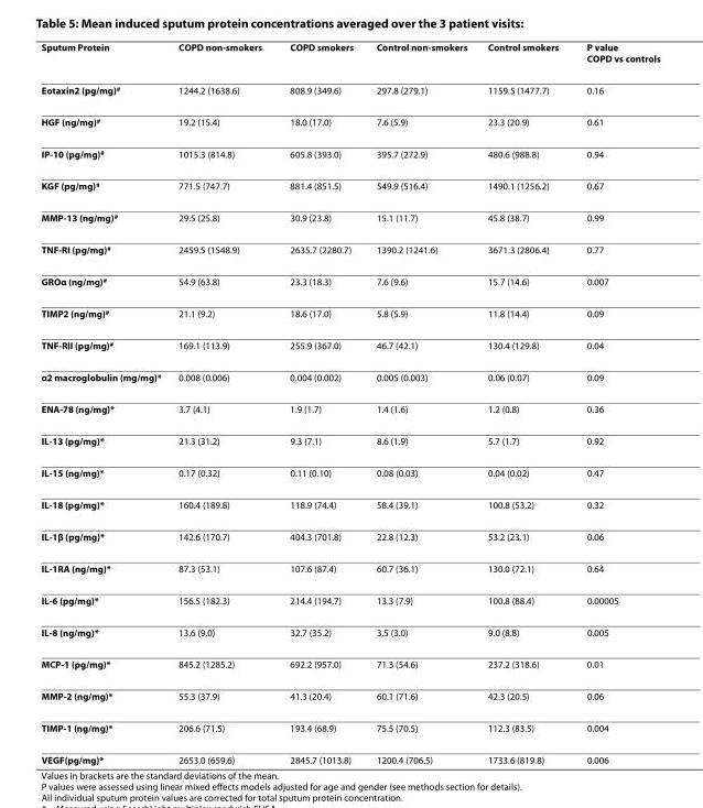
<table><thead><tr><td>Sputum Protein</td><td>COPD non-smokers</td><td>COPD smokers</td><td>Control non-smokers</td><td>Control smokers</td><td>P value COPD vs controls</td></tr></thead><tbody><tr><td>Eotaxin2 (pg/mg)<sup>#</sup></td><td>1244.2 (1638.6)</td><td>808.9 (349.6)</td><td>297.8 (279.1)</td><td>1159.5 (1477.7)</td><td>0.16</td></tr><tr><td>HGF (ng/mg)<sup>#</sup></td><td>19.2 (15.4)</td><td>18.0 (17.0)</td><td>7.6 (5.9)</td><td>23.3 (20.9)</td><td>0.61</td></tr><tr><td>IP-10 (pg/mg)<sup>#</sup></td><td>1015.3 (814.8)</td><td>605.8 (393.0)</td><td>395.7 (272.9)</td><td>480.6 (988.8)</td><td>0.94</td></tr><tr><td>KGF (pg/mg)<sup>#</sup></td><td>771.5 (747.7)</td><td>881.4 (851.5)</td><td>549.9 (516.4)</td><td>1490.1 (1256.2)</td><td>0.67</td></tr><tr><td>MMP-13 (ng/mg)<sup>#</sup></td><td>29.5 (25.8)</td><td>30.9 (23.8)</td><td>15.1 (11.7)</td><td>45.8 (38.7)</td><td>0.99</td></tr><tr><td>TNF-RI (pg/mg)<sup>#</sup></td><td>2459.5 (1548.9)</td><td>2635.7 (2280.7)</td><td>1390.2 (1241.6)</td><td>3671.3 (2806.4)</td><td>0.77</td></tr><tr><td>GROα (ng/mg)<sup>#</sup></td><td>54.9 (63.8)</td><td>23.3 (18.3)</td><td>7.6 (9.6)</td><td>15.7 (14.6)</td><td>0.007</td></tr><tr><td>TIMP2 (ng/mg)<sup>#</sup></td><td>21.1 (9.2)</td><td>18.6 (17.0)</td><td>5.8 (5.9)</td><td>11.8 (14.4)</td><td>0.09</td></tr><tr><td>TNF-RII (pg/mg)<sup>#</sup></td><td>169.1 (113.9)</td><td>255.9 (367.0)</td><td>46.7 (42.1)</td><td>130.4 (129.8)</td><td>0.04</td></tr><tr><td>α2 macroglobulin (mg/mg)*</td><td>0.008 (0.006)</td><td>0.004 (0.002)</td><td>0.005 (0.003)</td><td>0.06 (0.07)</td><td>0.09</td></tr><tr><td>ENA-78 (ng/mg)*</td><td>3.7 (4.1)</td><td>1.9 (1.7)</td><td>1.4 (1.6)</td><td>1.2 (0.8)</td><td>0.36</td></tr><tr><td>IL-13 (pg/mg)*</td><td>21.3 (31.2)</td><td>9.3 (7.1)</td><td>8.6 (1.9)</td><td>5.7 (1.7)</td><td>0.92</td></tr><tr><td>IL-15 (ng/mg)*</td><td>0.17 (0.32)</td><td>0.11 (0.10)</td><td>0.08 (0.03)</td><td>0.04 (0.02)</td><td>0.47</td></tr><tr><td>IL-18 (pg/mg)*</td><td>160.4 (189.8)</td><td>118.9 (74.4)</td><td>58.4 (39.1)</td><td>100.8 (53.2)</td><td>0.32</td></tr><tr><td>IL-1β (pg/mg)*</td><td>142.6 (170.7)</td><td>404.3 (701.8)</td><td>22.8 (12.3)</td><td>53.2 (23.1)</td><td>0.06</td></tr><tr><td>IL-1RA (ng/mg)*</td><td>87.3 (53.1)</td><td>107.6 (87.4)</td><td>60.7 (36.1)</td><td>130.0 (72.1)</td><td>0.64</td></tr><tr><td>IL-6 (pg/mg)*</td><td>156.5 (182.3)</td><td>214.4 (194.7)</td><td>13.3 (7.9)</td><td>100.8 (88.4)</td><td>0.00005</td></tr><tr><td>IL-8 (ng/mg)*</td><td>13.6 (9.0)</td><td>32.7 (35.2)</td><td>3.5 (3.0)</td><td>9.0 (8.8)</td><td>0.005</td></tr><tr><td>MCP-1 (pg/mg)*</td><td>845.2 (1285.2)</td><td>692.2 (957.0)</td><td>71.3 (54.6)</td><td>237.2 (318.6)</td><td>0.01</td></tr><tr><td>MMP-2 (ng/mg)*</td><td>55.3 (37.9)</td><td>41.3 (20.4)</td><td>60.1 (71.6)</td><td>42.3 (20.5)</td><td>0.06</td></tr><tr><td>TIMP-1 (ng/mg)*</td><td>206.6 (71.5)</td><td>193.4 (68.9)</td><td>75.5 (70.5)</td><td>112.3 (83.5)</td><td>0.004</td></tr><tr><td>VEGF(pg/mg)*</td><td>2653.0 (659.6)</td><td>2845.7 (1013.8)</td><td>1200.4 (706.5)</td><td>1733.6 (819.8)</td><td>0.006</td></tr></tbody></table>